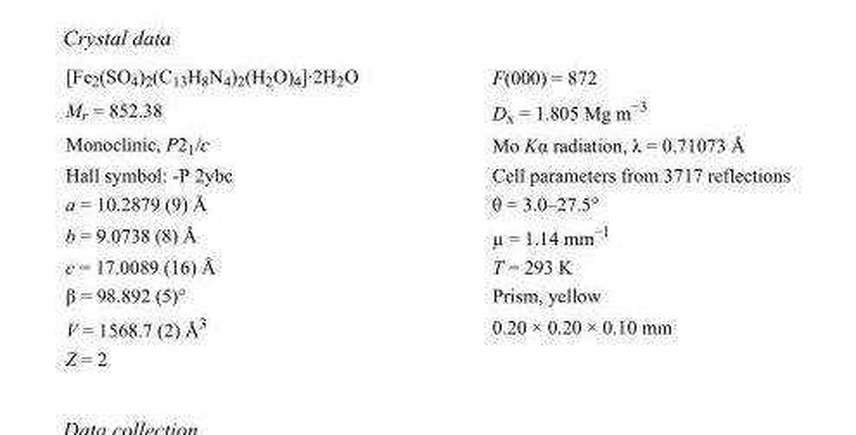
<table><tbody><tr><td>[Fe<sub>2</sub>(SO<sub>4</sub>)<sub>2</sub>(C<sub>13</sub>H<sub>8</sub>N<sub>4</sub>)<sub>2</sub>(H<sub>2</sub>O)<sub>4</sub>]·2H<sub>2</sub>O</td><td>F(000) = 872</td></tr><tr><td>M<sub>r</sub> = 852.38</td><td>D<sub>x</sub> = 1.805 Mg m<sup>−3</sup></td></tr><tr><td>Monoclinic, P2<sub>1</sub>/c</td><td>Mo Kα radiation, λ = 0.71073 Å</td></tr><tr><td>Hall symbol: -P 2ybc</td><td>Cell parameters from 3717 reflections</td></tr><tr><td>a = 10.2879 (9) Å</td><td>θ = 3.0–27.5°</td></tr><tr><td>b = 9.0738 (8) Å</td><td>µ = 1.14 mm<sup>−1</sup></td></tr><tr><td>c = 17.0089 (16) Å</td><td>T = 293 K</td></tr><tr><td>β = 98.892 (5)°</td><td>Prism, yellow</td></tr><tr><td>V = 1568.7 (2) Å<sup>3</sup></td><td>0.20 × 0.20 × 0.10 mm</td></tr><tr><td>Z = 2</td><td></td></tr></tbody></table>